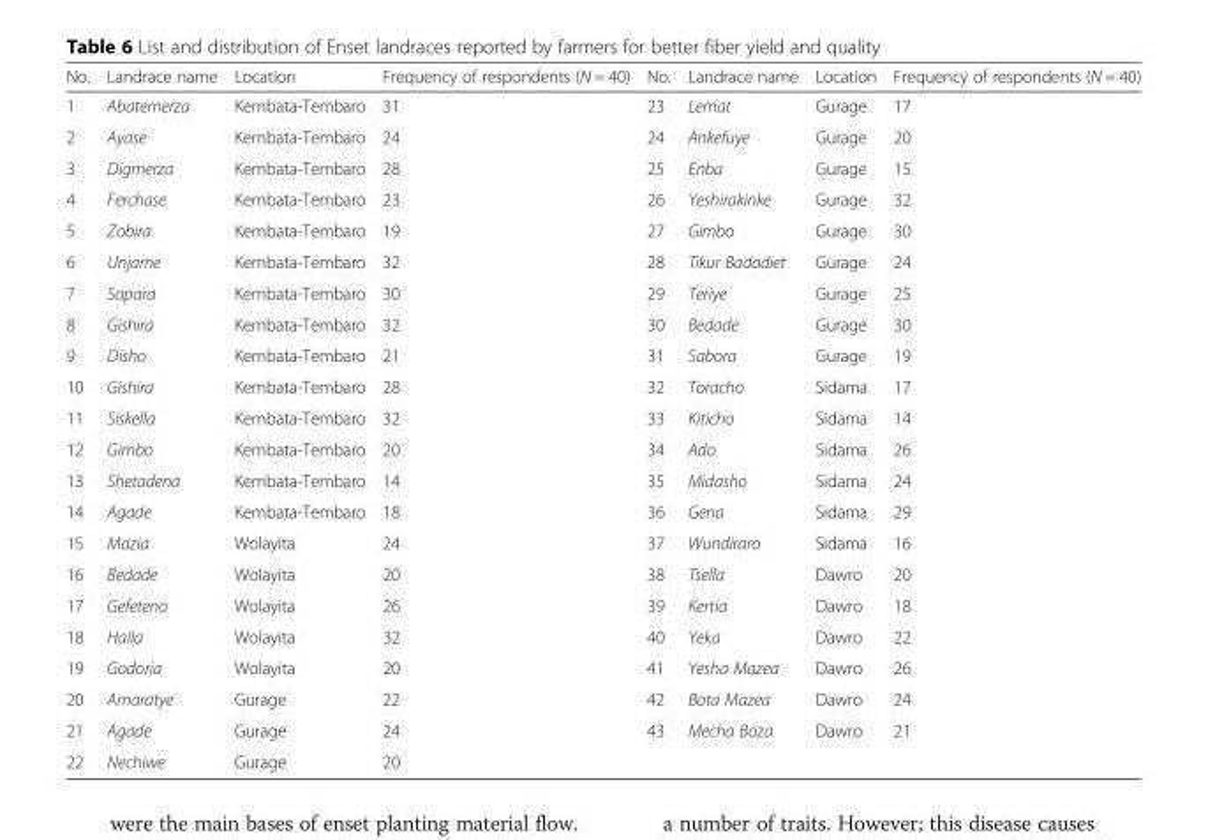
<table><thead><tr><td>No.</td><td>Landrace name</td><td>Location</td><td>Frequency of respondents (N = 40)</td><td>No.</td><td>Landrace name</td><td>Location</td><td>Frequency of respondents (N = 40)</td></tr></thead><tbody><tr><td>1</td><td>Abatemerza</td><td>Kembata-Tembaro</td><td>31</td><td>23</td><td>Lemat</td><td>Gurage</td><td>17</td></tr><tr><td>2</td><td>Ayase</td><td>Kembata-Tembaro</td><td>24</td><td>24</td><td>Ankefuye</td><td>Gurage</td><td>20</td></tr><tr><td>3</td><td>Digmerza</td><td>Kembata-Tembaro</td><td>28</td><td>25</td><td>Enba</td><td>Gurage</td><td>15</td></tr><tr><td>4</td><td>Ferchase</td><td>Kembata-Tembaro</td><td>23</td><td>26</td><td>Yeshirakinke</td><td>Gurage</td><td>32</td></tr><tr><td>5</td><td>Zobira</td><td>Kembata-Tembaro</td><td>19</td><td>27</td><td>Gimbo</td><td>Gurage</td><td>30</td></tr><tr><td>6</td><td>Unjame</td><td>Kembata-Tembaro</td><td>32</td><td>28</td><td>Tikur Badadiet</td><td>Gurage</td><td>24</td></tr><tr><td>7</td><td>Sapara</td><td>Kembata-Tembaro</td><td>30</td><td>29</td><td>Teriye</td><td>Gurage</td><td>25</td></tr><tr><td>8</td><td>Gishira</td><td>Kembata-Tembaro</td><td>32</td><td>30</td><td>Bedade</td><td>Gurage</td><td>30</td></tr><tr><td>9</td><td>Disho</td><td>Kembata-Tembaro</td><td>21</td><td>31</td><td>Sabora</td><td>Gurage</td><td>19</td></tr><tr><td>10</td><td>Gishira</td><td>Kembata-Tembaro</td><td>28</td><td>32</td><td>Toracho</td><td>Sidama</td><td>17</td></tr><tr><td>11</td><td>Siskella</td><td>Kembata-Tembaro</td><td>32</td><td>33</td><td>Kiticho</td><td>Sidama</td><td>14</td></tr><tr><td>12</td><td>Gimbo</td><td>Kembata-Tembaro</td><td>20</td><td>34</td><td>Ado</td><td>Sidama</td><td>26</td></tr><tr><td>13</td><td>Shetadena</td><td>Kembata-Tembaro</td><td>14</td><td>35</td><td>Midasho</td><td>Sidama</td><td>24</td></tr><tr><td>14</td><td>Agade</td><td>Kembata-Tembaro</td><td>18</td><td>36</td><td>Gena</td><td>Sidama</td><td>29</td></tr><tr><td>15</td><td>Mazia</td><td>Wolayita</td><td>24</td><td>37</td><td>Wundiraro</td><td>Sidama</td><td>16</td></tr><tr><td>16</td><td>Bedade</td><td>Wolayita</td><td>20</td><td>38</td><td>Tsella</td><td>Dawro</td><td>20</td></tr><tr><td>17</td><td>Gefeteno</td><td>Wolayita</td><td>26</td><td>39</td><td>Kertia</td><td>Dawro</td><td>18</td></tr><tr><td>18</td><td>Halla</td><td>Wolayita</td><td>32</td><td>40</td><td>Yeka</td><td>Dawro</td><td>22</td></tr><tr><td>19</td><td>Godoria</td><td>Wolayita</td><td>20</td><td>41</td><td>Yesha Mazea</td><td>Dawro</td><td>26</td></tr><tr><td>20</td><td>Amaratye</td><td>Gurage</td><td>22</td><td>42</td><td>Bota Mazea</td><td>Dawro</td><td>24</td></tr><tr><td>21</td><td>Agade</td><td>Gurage</td><td>24</td><td>43</td><td>Mecha Boza</td><td>Dawro</td><td>21</td></tr><tr><td>22</td><td>Nechiwe</td><td>Gurage</td><td>20</td><td></td><td></td><td></td><td></td></tr></tbody></table>